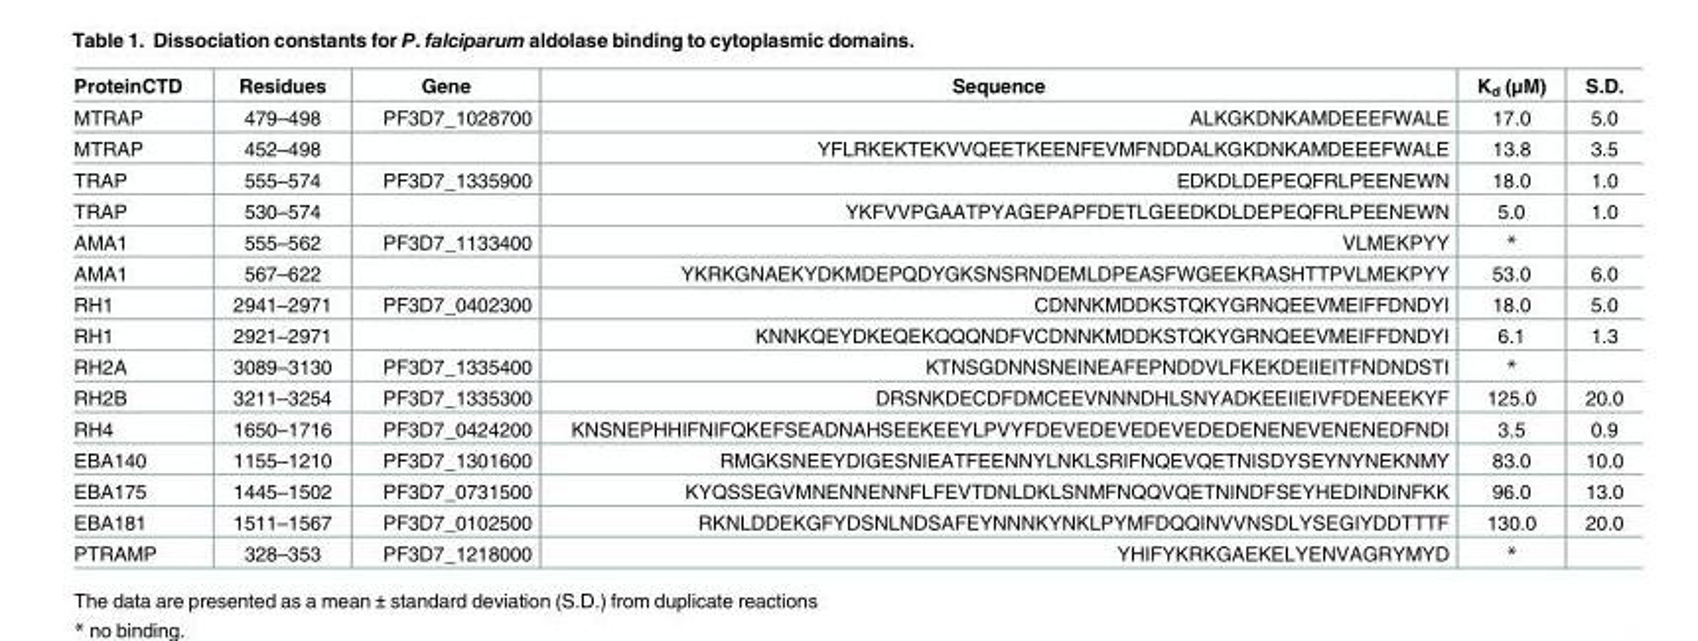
<table><thead><tr><td>ProteinCTD</td><td>Residues</td><td>Gene</td><td>Sequence</td><td>K<sub>d</sub> (μM)</td><td>S.D.</td></tr></thead><tbody><tr><td>MTRAP</td><td>479–498</td><td>PF3D7_1028700</td><td>ALKGKDNKAMDEEEFWALE</td><td>17.0</td><td>5.0</td></tr><tr><td>MTRAP</td><td>452–498</td><td></td><td>YFLRKEKTEKVVQEETKEENFEVMFNDDALKGKDNKAMDEEEFWALE</td><td>13.8</td><td>3.5</td></tr><tr><td>TRAP</td><td>555–574</td><td>PF3D7_1335900</td><td>EDKDLDEPEQFRLPEENEWN</td><td>18.0</td><td>1.0</td></tr><tr><td>TRAP</td><td>530–574</td><td></td><td>YKFVVPGAATPYAGEPAPFDETLGEEDKDLDEPEQFRLPEENEWN</td><td>5.0</td><td>1.0</td></tr><tr><td>AMA1</td><td>555–562</td><td>PF3D7_1133400</td><td>VLMEKPYY</td><td>*</td><td></td></tr><tr><td>AMA1</td><td>567–622</td><td></td><td>YKRKGNAEKYDKMDEPQDYGKSNSRNDEMLDPEASFWGEEKRASHTTPVLMEKPYY</td><td>53.0</td><td>6.0</td></tr><tr><td>RH1</td><td>2941–2971</td><td>PF3D7_0402300</td><td>CDNNKMDDKSTQKYGRNQEEVMEIFFDNDYI</td><td>18.0</td><td>5.0</td></tr><tr><td>RH1</td><td>2921–2971</td><td></td><td>KNNKQEYDKEQEKQQQNDFVCDNNKMDDKSTQKYGRNQEEVMEIFFDNDYI</td><td>6.1</td><td>1.3</td></tr><tr><td>RH2A</td><td>3089–3130</td><td>PF3D7_1335400</td><td>KTNSGDNNSNEINEAFEPNDDVLFKEKDEIIEITFNDNDSTI</td><td>*</td><td></td></tr><tr><td>RH2B</td><td>3211–3254</td><td>PF3D7_1335300</td><td>DRSNKDECDFDMCEEVNNNDHLSNYADKEEIIEIVFDENEEKYF</td><td>125.0</td><td>20.0</td></tr><tr><td>RH4</td><td>1650–1716</td><td>PF3D7_0424200</td><td>KNSNEPHHIFNIFQKEFSEADNAHSEEKEEYLPVYFDEVEDEVEDEVEDEDENENEVENENEDFNDI</td><td>3.5</td><td>0.9</td></tr><tr><td>EBA140</td><td>1155–1210</td><td>PF3D7_1301600</td><td>RMGKSNEEYDIGESNIEATFEENNYLNKLSRIFNQEVQETNISDYSEYNYNEKNMY</td><td>83.0</td><td>10.0</td></tr><tr><td>EBA175</td><td>1445–1502</td><td>PF3D7_0731500</td><td>KYQSSEGVMNENNENNFLFEVTDNLDKLSNMFNQQVQETNINDFSEYHEDINDINFKK</td><td>96.0</td><td>13.0</td></tr><tr><td>EBA181</td><td>1511–1567</td><td>PF3D7_0102500</td><td>RKNLDDEKGFYDSNLNDSAFEYNNNKYNKLPYMFDQQINVVNSDLYSEGIYDDTTTF</td><td>130.0</td><td>20.0</td></tr><tr><td>PTRAMP</td><td>328–353</td><td>PF3D7_1218000</td><td>YHIFYKRKGAEKELYENVAGRYMYD</td><td>*</td><td></td></tr></tbody></table>